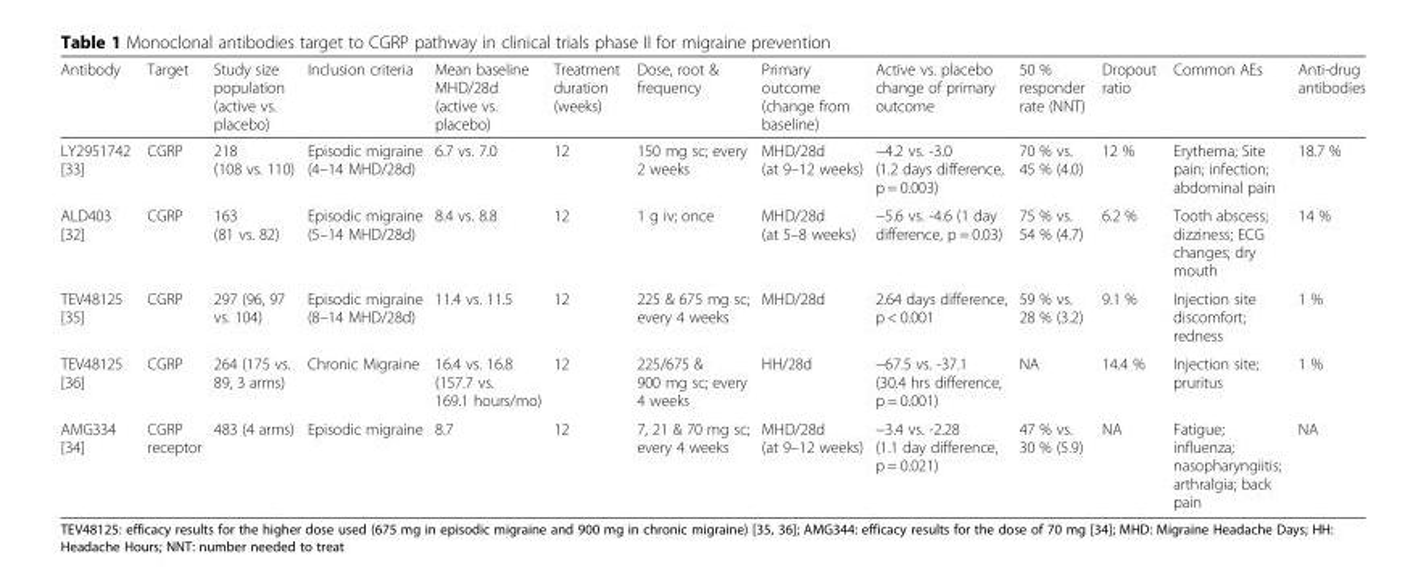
<table><thead><tr><td>Antibody</td><td>Target</td><td>Study size population (active vs. placebo)</td><td>Inclusion criteria</td><td>Mean baseline MHD/28d (active vs. placebo)</td><td>Treatment duration (weeks)</td><td>Dose, root &amp; frequency</td><td>Primary outcome (change from baseline)</td><td>Active vs. placebo change of primary outcome</td><td>50 % responder rate (NNT)</td><td>Dropout ratio</td><td>Common AEs</td><td>Anti-drug antibodies</td></tr></thead><tbody><tr><td>LY2951742 [33]</td><td>CGRP</td><td>218 (108 vs. 110)</td><td>Episodic migraine (4–14 MHD/28d)</td><td>6.7 vs. 7.0</td><td>12</td><td>150 mg sc; every 2 weeks</td><td>MHD/28d (at 9–12 weeks)</td><td>−4.2 vs. -3.0 (1.2 days difference, p = 0.003)</td><td>70 % vs. 45 % (4.0)</td><td>12 %</td><td>Erythema; Site pain; infection; abdominal pain</td><td>18.7 %</td></tr><tr><td>ALD403 [32]</td><td>CGRP</td><td>163 (81 vs. 82)</td><td>Episodic migraine (5–14 MHD/28d)</td><td>8.4 vs. 8.8</td><td>12</td><td>1 g iv; once</td><td>MHD/28d (at 5–8 weeks)</td><td>−5.6 vs. -4.6 (1 day difference, p = 0.03)</td><td>75 % vs. 54 % (4.7)</td><td>6.2 %</td><td>Tooth abscess; dizziness; ECG changes; dry mouth</td><td>14 %</td></tr><tr><td>TEV48125 [35]</td><td>CGRP</td><td>297 (96, 97 vs. 104)</td><td>Episodic migraine (8–14 MHD/28d)</td><td>11.4 vs. 11.5</td><td>12</td><td>225 &amp; 675 mg sc; every 4 weeks</td><td>MHD/28d</td><td>2.64 days difference, p &lt; 0.001</td><td>59 % vs. 28 % (3.2)</td><td>9.1 %</td><td>Injection site discomfort; redness</td><td>1 %</td></tr><tr><td>TEV48125 [36]</td><td>CGRP</td><td>264 (175 vs. 89, 3 arms)</td><td>Chronic Migraine</td><td>16.4 vs. 16.8 (157.7 vs. 169.1 hours/mo)</td><td>12</td><td>225/675 &amp; 900 mg sc; every 4 weeks</td><td>HH/28d</td><td>−67.5 vs. -37.1 (30.4 hrs difference, p = 0.001)</td><td>NA</td><td>14.4 %</td><td>Injection site; pruritus</td><td>1 %</td></tr><tr><td>AMG334 [34]</td><td>CGRP receptor</td><td>483 (4 arms)</td><td>Episodic migraine</td><td>8.7</td><td>12</td><td>7, 21 &amp; 70 mg sc; every 4 weeks</td><td>MHD/28d (at 9–12 weeks)</td><td>−3.4 vs. -2.28 (1.1 day difference, p = 0.021)</td><td>47 % vs. 30 % (5.9)</td><td>NA</td><td>Fatigue; influenza; nasopharyngiitis; arthralgia; back pain</td><td>NA</td></tr></tbody></table>